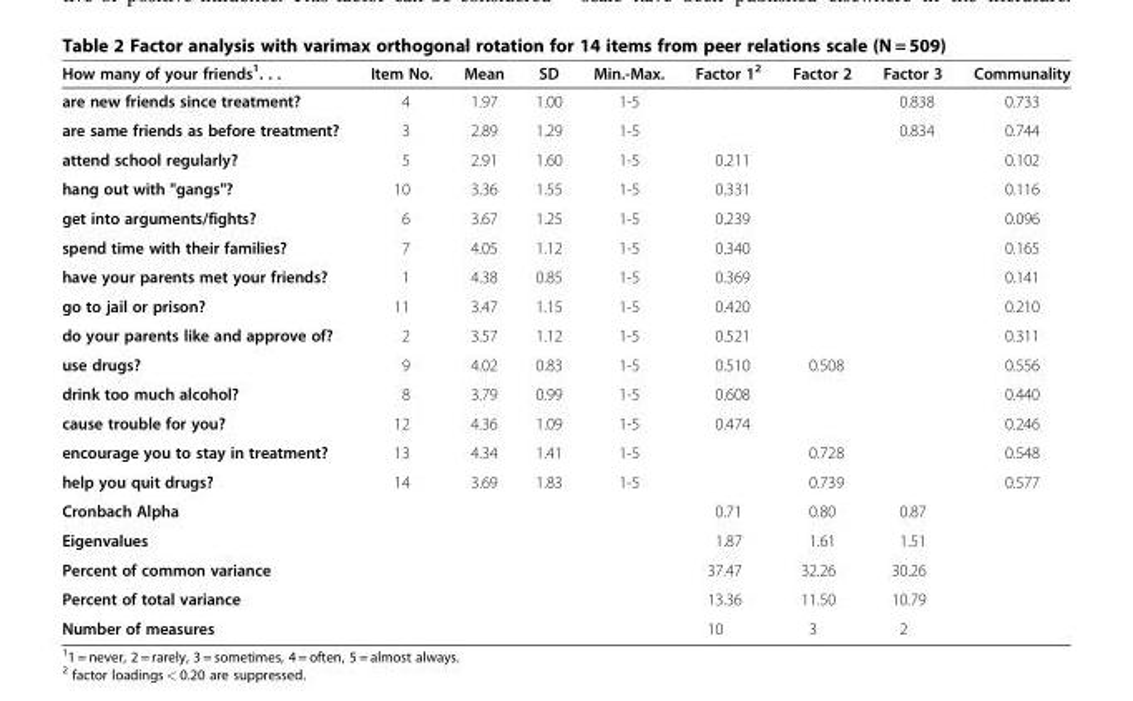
<table><thead><tr><td>How many of your friends<sup>1</sup>. . .</td><td>Item No.</td><td>Mean</td><td>SD</td><td>Min.-Max.</td><td>Factor 1<sup>2</sup></td><td>Factor 2</td><td>Factor 3</td><td>Communality</td></tr></thead><tbody><tr><td>are new friends since treatment?</td><td>4</td><td>1.97</td><td>1.00</td><td>1-5</td><td></td><td></td><td>0.838</td><td>0.733</td></tr><tr><td>are same friends as before treatment?</td><td>3</td><td>2.89</td><td>1.29</td><td>1-5</td><td></td><td></td><td>0.834</td><td>0.744</td></tr><tr><td>attend school regularly?</td><td>5</td><td>2.91</td><td>1.60</td><td>1-5</td><td>0.211</td><td></td><td></td><td>0.102</td></tr><tr><td>hang out with &quot;gangs&quot;?</td><td>10</td><td>3.36</td><td>1.55</td><td>1-5</td><td>0.331</td><td></td><td></td><td>0.116</td></tr><tr><td>get into arguments/fights?</td><td>6</td><td>3.67</td><td>1.25</td><td>1-5</td><td>0.239</td><td></td><td></td><td>0.096</td></tr><tr><td>spend time with their families?</td><td>7</td><td>4.05</td><td>1.12</td><td>1-5</td><td>0.340</td><td></td><td></td><td>0.165</td></tr><tr><td>have your parents met your friends?</td><td>1</td><td>4.38</td><td>0.85</td><td>1-5</td><td>0.369</td><td></td><td></td><td>0.141</td></tr><tr><td>go to jail or prison?</td><td>11</td><td>3.47</td><td>1.15</td><td>1-5</td><td>0.420</td><td></td><td></td><td>0.210</td></tr><tr><td>do your parents like and approve of?</td><td>2</td><td>3.57</td><td>1.12</td><td>1-5</td><td>0.521</td><td></td><td></td><td>0.311</td></tr><tr><td>use drugs?</td><td>9</td><td>4.02</td><td>0.83</td><td>1-5</td><td>0.510</td><td>0.508</td><td></td><td>0.556</td></tr><tr><td>drink too much alcohol?</td><td>8</td><td>3.79</td><td>0.99</td><td>1-5</td><td>0.608</td><td></td><td></td><td>0.440</td></tr><tr><td>cause trouble for you?</td><td>12</td><td>4.36</td><td>1.09</td><td>1-5</td><td>0.474</td><td></td><td></td><td>0.246</td></tr><tr><td>encourage you to stay in treatment?</td><td>13</td><td>4.34</td><td>1.41</td><td>1-5</td><td></td><td>0.728</td><td></td><td>0.548</td></tr><tr><td>help you quit drugs?</td><td>14</td><td>3.69</td><td>1.83</td><td>1-5</td><td></td><td>0.739</td><td></td><td>0.577</td></tr><tr><td>Cronbach Alpha</td><td></td><td></td><td></td><td></td><td>0.71</td><td>0.80</td><td>0.87</td><td></td></tr><tr><td>Eigenvalues</td><td></td><td></td><td></td><td></td><td>1.87</td><td>1.61</td><td>1.51</td><td></td></tr><tr><td>Percent of common variance</td><td></td><td></td><td></td><td></td><td>37.47</td><td>32.26</td><td>30.26</td><td></td></tr><tr><td>Percent of total variance</td><td></td><td></td><td></td><td></td><td>13.36</td><td>11.50</td><td>10.79</td><td></td></tr><tr><td>Number of measures</td><td></td><td></td><td></td><td></td><td>10</td><td>3</td><td>2</td><td></td></tr></tbody></table>